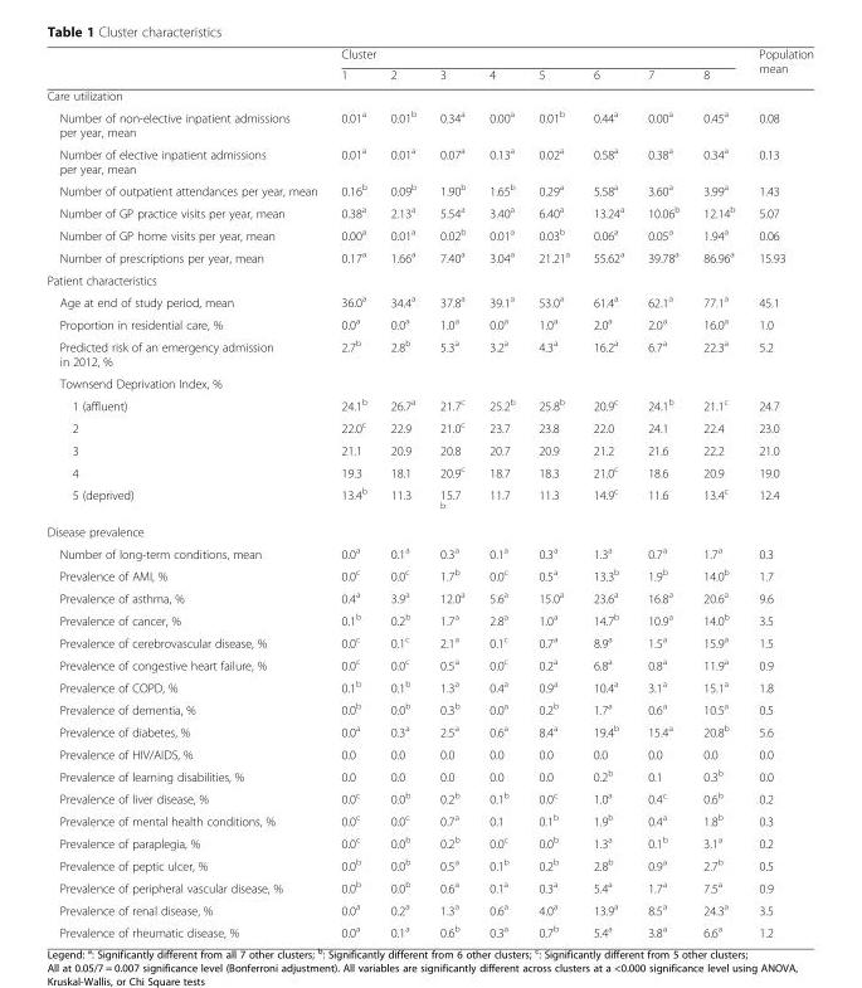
<table><thead><tr><td rowspan="2"></td><td colspan="8">Cluster</td><td rowspan="2">Population mean</td></tr><tr><td>1</td><td>2</td><td>3</td><td>4</td><td>5</td><td>6</td><td>7</td><td>8</td></tr></thead><tbody><tr><td colspan="10">Care utilization</td></tr><tr><td>Number of non-elective inpatient admissions per year, mean</td><td>0.01<sup>a</sup></td><td>0.01<sup>b</sup></td><td>0.34<sup>a</sup></td><td>0.00<sup>a</sup></td><td>0.01<sup>b</sup></td><td>0.44<sup>a</sup></td><td>0.00<sup>a</sup></td><td>0.45<sup>a</sup></td><td>0.08</td></tr><tr><td>Number of elective inpatient admissions per year, mean</td><td>0.01<sup>a</sup></td><td>0.01<sup>a</sup></td><td>0.07<sup>a</sup></td><td>0.13<sup>a</sup></td><td>0.02<sup>a</sup></td><td>0.58<sup>a</sup></td><td>0.38<sup>a</sup></td><td>0.34<sup>a</sup></td><td>0.13</td></tr><tr><td>Number of outpatient attendances per year, mean</td><td>0.16<sup>b</sup></td><td>0.09<sup>b</sup></td><td>1.90<sup>b</sup></td><td>1.65<sup>b</sup></td><td>0.29<sup>a</sup></td><td>5.58<sup>a</sup></td><td>3.60<sup>a</sup></td><td>3.99<sup>a</sup></td><td>1.43</td></tr><tr><td>Number of GP practice visits per year, mean</td><td>0.38<sup>a</sup></td><td>2.13<sup>a</sup></td><td>5.54<sup>a</sup></td><td>3.40<sup>a</sup></td><td>6.40<sup>a</sup></td><td>13.24<sup>a</sup></td><td>10.06<sup>b</sup></td><td>12.14<sup>b</sup></td><td>5.07</td></tr><tr><td>Number of GP home visits per year, mean</td><td>0.00<sup>a</sup></td><td>0.01<sup>a</sup></td><td>0.02<sup>b</sup></td><td>0.01<sup>a</sup></td><td>0.03<sup>b</sup></td><td>0.06<sup>a</sup></td><td>0.05<sup>a</sup></td><td>1.94<sup>a</sup></td><td>0.06</td></tr><tr><td>Number of prescriptions per year, mean</td><td>0.17<sup>a</sup></td><td>1.66<sup>a</sup></td><td>7.40<sup>a</sup></td><td>3.04<sup>a</sup></td><td>21.21<sup>a</sup></td><td>55.62<sup>a</sup></td><td>39.78<sup>a</sup></td><td>86.96<sup>a</sup></td><td>15.93</td></tr><tr><td colspan="10">Patient characteristics</td></tr><tr><td>Age at end of study period, mean</td><td>36.0<sup>a</sup></td><td>34.4<sup>a</sup></td><td>37.8<sup>a</sup></td><td>39.1<sup>a</sup></td><td>53.0<sup>a</sup></td><td>61.4<sup>a</sup></td><td>62.1<sup>a</sup></td><td>77.1<sup>a</sup></td><td>45.1</td></tr><tr><td>Proportion in residential care, %</td><td>0.0<sup>a</sup></td><td>0.0<sup>a</sup></td><td>1.0<sup>a</sup></td><td>0.0<sup>a</sup></td><td>1.0<sup>a</sup></td><td>2.0<sup>a</sup></td><td>2.0<sup>a</sup></td><td>16.0<sup>a</sup></td><td>1.0</td></tr><tr><td>Predicted risk of an emergency admission in 2012, %</td><td>2.7<sup>b</sup></td><td>2.8<sup>b</sup></td><td>5.3<sup>a</sup></td><td>3.2<sup>a</sup></td><td>4.3<sup>a</sup></td><td>16.2<sup>a</sup></td><td>6.7<sup>a</sup></td><td>22.3<sup>a</sup></td><td>5.2</td></tr><tr><td colspan="10">Townsend Deprivation Index, %</td></tr><tr><td>1 (affluent)</td><td>24.1<sup>b</sup></td><td>26.7<sup>a</sup></td><td>21.7<sup>c</sup></td><td>25.2<sup>b</sup></td><td>25.8<sup>b</sup></td><td>20.9<sup>c</sup></td><td>24.1<sup>b</sup></td><td>21.1<sup>c</sup></td><td>24.7</td></tr><tr><td>2</td><td>22.0<sup>c</sup></td><td>22.9</td><td>21.0<sup>c</sup></td><td>23.7</td><td>23.8</td><td>22.0</td><td>24.1</td><td>22.4</td><td>23.0</td></tr><tr><td>3</td><td>21.1</td><td>20.9</td><td>20.8</td><td>20.7</td><td>20.9</td><td>21.2</td><td>21.6</td><td>22.2</td><td>21.0</td></tr><tr><td>4</td><td>19.3</td><td>18.1</td><td>20.9<sup>c</sup></td><td>18.7</td><td>18.3</td><td>21.0<sup>c</sup></td><td>18.6</td><td>20.9</td><td>19.0</td></tr><tr><td>5 (deprived)</td><td>13.4<sup>b</sup></td><td>11.3</td><td>15.7 <sup>b</sup></td><td>11.7</td><td>11.3</td><td>14.9<sup>c</sup></td><td>11.6</td><td>13.4<sup>c</sup></td><td>12.4</td></tr><tr><td colspan="10">Disease prevalence</td></tr><tr><td>Number of long-term conditions, mean</td><td>0.0<sup>a</sup></td><td>0.1<sup>a</sup></td><td>0.3<sup>a</sup></td><td>0.1<sup>a</sup></td><td>0.3<sup>a</sup></td><td>1.3<sup>a</sup></td><td>0.7<sup>a</sup></td><td>1.7<sup>a</sup></td><td>0.3</td></tr><tr><td>Prevalence of AMI, %</td><td>0.0<sup>c</sup></td><td>0.0<sup>c</sup></td><td>1.7<sup>b</sup></td><td>0.0<sup>c</sup></td><td>0.5<sup>a</sup></td><td>13.3<sup>b</sup></td><td>1.9<sup>b</sup></td><td>14.0<sup>b</sup></td><td>1.7</td></tr><tr><td>Prevalence of asthma, %</td><td>0.4<sup>a</sup></td><td>3.9<sup>a</sup></td><td>12.0<sup>a</sup></td><td>5.6<sup>a</sup></td><td>15.0<sup>a</sup></td><td>23.6<sup>a</sup></td><td>16.8<sup>a</sup></td><td>20.6<sup>a</sup></td><td>9.6</td></tr><tr><td>Prevalence of cancer, %</td><td>0.1<sup>b</sup></td><td>0.2<sup>b</sup></td><td>1.7<sup>a</sup></td><td>2.8<sup>a</sup></td><td>1.0<sup>a</sup></td><td>14.7<sup>b</sup></td><td>10.9<sup>a</sup></td><td>14.0<sup>b</sup></td><td>3.5</td></tr><tr><td>Prevalence of cerebrovascular disease, %</td><td>0.0<sup>c</sup></td><td>0.1<sup>c</sup></td><td>2.1<sup>a</sup></td><td>0.1<sup>c</sup></td><td>0.7<sup>a</sup></td><td>8.9<sup>a</sup></td><td>1.5<sup>a</sup></td><td>15.9<sup>a</sup></td><td>1.5</td></tr><tr><td>Prevalence of congestive heart failure, %</td><td>0.0<sup>c</sup></td><td>0.0<sup>c</sup></td><td>0.5<sup>a</sup></td><td>0.0<sup>c</sup></td><td>0.2<sup>a</sup></td><td>6.8<sup>a</sup></td><td>0.8<sup>a</sup></td><td>11.9<sup>a</sup></td><td>0.9</td></tr><tr><td>Prevalence of COPD, %</td><td>0.1<sup>b</sup></td><td>0.1<sup>b</sup></td><td>1.3<sup>a</sup></td><td>0.4<sup>a</sup></td><td>0.9<sup>a</sup></td><td>10.4<sup>a</sup></td><td>3.1<sup>a</sup></td><td>15.1<sup>a</sup></td><td>1.8</td></tr><tr><td>Prevalence of dementia, %</td><td>0.0<sup>b</sup></td><td>0.0<sup>b</sup></td><td>0.3<sup>b</sup></td><td>0.0<sup>a</sup></td><td>0.2<sup>b</sup></td><td>1.7<sup>a</sup></td><td>0.6<sup>a</sup></td><td>10.5<sup>a</sup></td><td>0.5</td></tr><tr><td>Prevalence of diabetes, %</td><td>0.0<sup>a</sup></td><td>0.3<sup>a</sup></td><td>2.5<sup>a</sup></td><td>0.6<sup>a</sup></td><td>8.4<sup>a</sup></td><td>19.4<sup>b</sup></td><td>15.4<sup>a</sup></td><td>20.8<sup>b</sup></td><td>5.6</td></tr><tr><td>Prevalence of HIV/AIDS, %</td><td>0.0</td><td>0.0</td><td>0.0</td><td>0.0</td><td>0.0</td><td>0.0</td><td>0.0</td><td>0.0</td><td>0.0</td></tr><tr><td>Prevalence of learning disabilities, %</td><td>0.0</td><td>0.0</td><td>0.0</td><td>0.0</td><td>0.0</td><td>0.2<sup>b</sup></td><td>0.1</td><td>0.3<sup>b</sup></td><td>0.0</td></tr><tr><td>Prevalence of liver disease, %</td><td>0.0<sup>c</sup></td><td>0.0<sup>b</sup></td><td>0.2<sup>b</sup></td><td>0.1<sup>b</sup></td><td>0.0<sup>c</sup></td><td>1.0<sup>a</sup></td><td>0.4<sup>c</sup></td><td>0.6<sup>b</sup></td><td>0.2</td></tr><tr><td>Prevalence of mental health conditions, %</td><td>0.0<sup>c</sup></td><td>0.0<sup>c</sup></td><td>0.7<sup>a</sup></td><td>0.1</td><td>0.1<sup>b</sup></td><td>1.9<sup>b</sup></td><td>0.4<sup>a</sup></td><td>1.8<sup>b</sup></td><td>0.3</td></tr><tr><td>Prevalence of paraplegia, %</td><td>0.0<sup>c</sup></td><td>0.0<sup>b</sup></td><td>0.2<sup>b</sup></td><td>0.0<sup>c</sup></td><td>0.0<sup>b</sup></td><td>1.3<sup>a</sup></td><td>0.1<sup>b</sup></td><td>3.1<sup>a</sup></td><td>0.2</td></tr><tr><td>Prevalence of peptic ulcer, %</td><td>0.0<sup>b</sup></td><td>0.0<sup>b</sup></td><td>0.5<sup>a</sup></td><td>0.1<sup>b</sup></td><td>0.2<sup>b</sup></td><td>2.8<sup>b</sup></td><td>0.9<sup>a</sup></td><td>2.7<sup>b</sup></td><td>0.5</td></tr><tr><td>Prevalence of peripheral vascular disease, %</td><td>0.0<sup>b</sup></td><td>0.0<sup>b</sup></td><td>0.6<sup>a</sup></td><td>0.1<sup>a</sup></td><td>0.3<sup>a</sup></td><td>5.4<sup>a</sup></td><td>1.7<sup>a</sup></td><td>7.5<sup>a</sup></td><td>0.9</td></tr><tr><td>Prevalence of renal disease, %</td><td>0.0<sup>a</sup></td><td>0.2<sup>a</sup></td><td>1.3<sup>a</sup></td><td>0.6<sup>a</sup></td><td>4.0<sup>a</sup></td><td>13.9<sup>a</sup></td><td>8.5<sup>a</sup></td><td>24.3<sup>a</sup></td><td>3.5</td></tr><tr><td>Prevalence of rheumatic disease, %</td><td>0.0<sup>a</sup></td><td>0.1<sup>a</sup></td><td>0.6<sup>b</sup></td><td>0.3<sup>a</sup></td><td>0.7<sup>b</sup></td><td>5.4<sup>a</sup></td><td>3.8<sup>a</sup></td><td>6.6<sup>a</sup></td><td>1.2</td></tr></tbody></table>